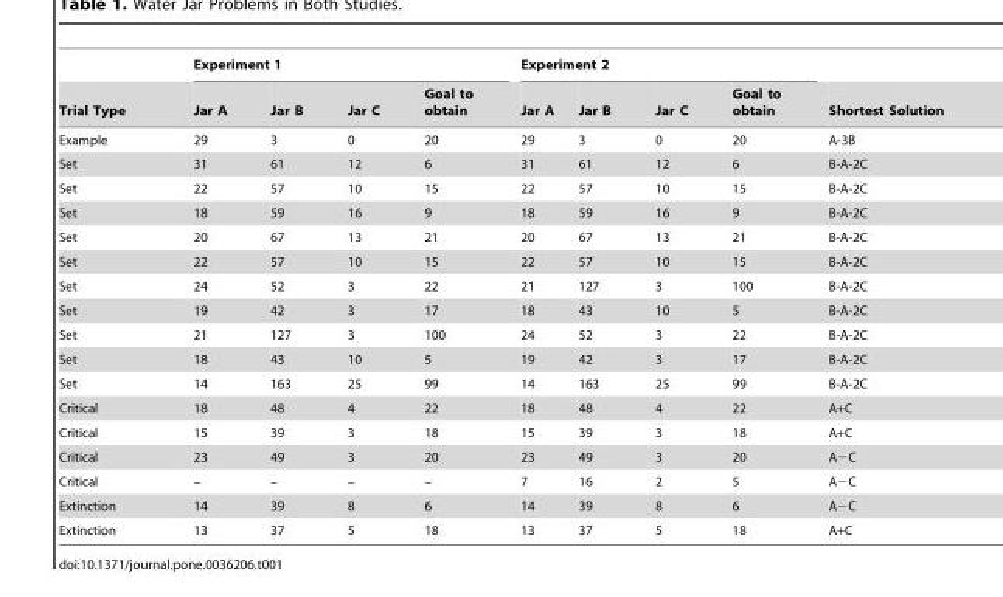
<table><thead><tr><td rowspan="2">Trial Type</td><td colspan="4">Experiment 1</td><td colspan="4">Experiment 2</td><td rowspan="2">Shortest Solution</td></tr><tr><td>Jar A</td><td>Jar B</td><td>Jar C</td><td>Goal to obtain</td><td>Jar A</td><td>Jar B</td><td>Jar C</td><td>Goal to obtain</td></tr></thead><tbody><tr><td>Example</td><td>29</td><td>3</td><td>0</td><td>20</td><td>29</td><td>3</td><td>0</td><td>20</td><td>A-3B</td></tr><tr><td>Set</td><td>31</td><td>61</td><td>12</td><td>6</td><td>31</td><td>61</td><td>12</td><td>6</td><td>B-A-2C</td></tr><tr><td>Set</td><td>22</td><td>57</td><td>10</td><td>15</td><td>22</td><td>57</td><td>10</td><td>15</td><td>B-A-2C</td></tr><tr><td>Set</td><td>18</td><td>59</td><td>16</td><td>9</td><td>18</td><td>59</td><td>16</td><td>9</td><td>B-A-2C</td></tr><tr><td>Set</td><td>20</td><td>67</td><td>13</td><td>21</td><td>20</td><td>67</td><td>13</td><td>21</td><td>B-A-2C</td></tr><tr><td>Set</td><td>22</td><td>57</td><td>10</td><td>15</td><td>22</td><td>57</td><td>10</td><td>15</td><td>B-A-2C</td></tr><tr><td>Set</td><td>24</td><td>52</td><td>3</td><td>22</td><td>21</td><td>127</td><td>3</td><td>100</td><td>B-A-2C</td></tr><tr><td>Set</td><td>19</td><td>42</td><td>3</td><td>17</td><td>18</td><td>43</td><td>10</td><td>5</td><td>B-A-2C</td></tr><tr><td>Set</td><td>21</td><td>127</td><td>3</td><td>100</td><td>24</td><td>52</td><td>3</td><td>22</td><td>B-A-2C</td></tr><tr><td>Set</td><td>18</td><td>43</td><td>10</td><td>5</td><td>19</td><td>42</td><td>3</td><td>17</td><td>B-A-2C</td></tr><tr><td>Set</td><td>14</td><td>163</td><td>25</td><td>99</td><td>14</td><td>163</td><td>25</td><td>99</td><td>B-A-2C</td></tr><tr><td>Critical</td><td>18</td><td>48</td><td>4</td><td>22</td><td>18</td><td>48</td><td>4</td><td>22</td><td>A+C</td></tr><tr><td>Critical</td><td>15</td><td>39</td><td>3</td><td>18</td><td>15</td><td>39</td><td>3</td><td>18</td><td>A+C</td></tr><tr><td>Critical</td><td>23</td><td>49</td><td>3</td><td>20</td><td>23</td><td>49</td><td>3</td><td>20</td><td>A−C</td></tr><tr><td>Critical</td><td>–</td><td>–</td><td>–</td><td>–</td><td>7</td><td>16</td><td>2</td><td>5</td><td>A−C</td></tr><tr><td>Extinction</td><td>14</td><td>39</td><td>8</td><td>6</td><td>14</td><td>39</td><td>8</td><td>6</td><td>A−C</td></tr><tr><td>Extinction</td><td>13</td><td>37</td><td>5</td><td>18</td><td>13</td><td>37</td><td>5</td><td>18</td><td>A+C</td></tr></tbody></table>